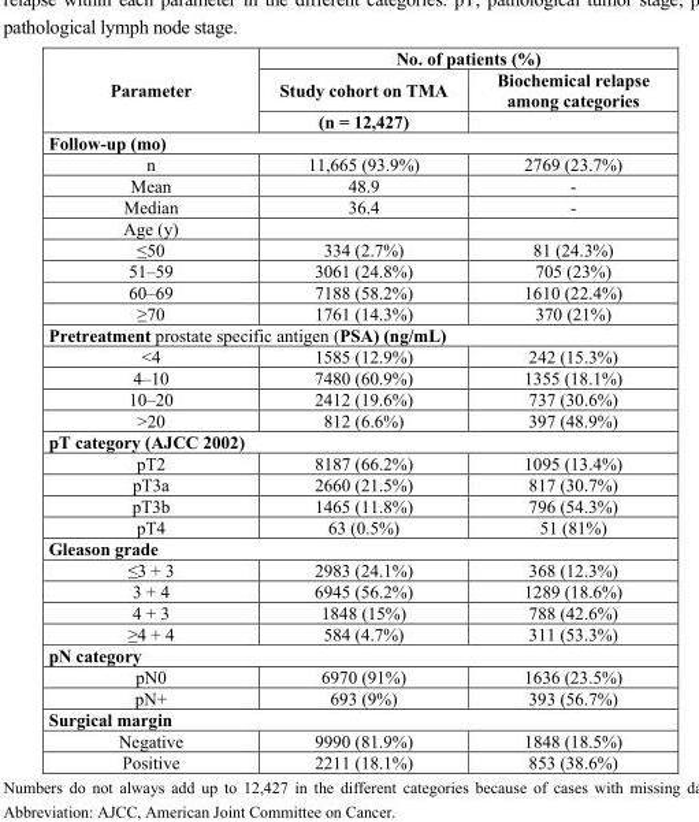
<table><thead><tr><td rowspan="3">Parameter</td><td colspan="2">No. of patients (%)</td></tr><tr><td rowspan="2">Study cohort on TMA (n = 12,427)</td><td rowspan="2">Biochemical relapse among categories</td></tr><tr></tr></thead><tbody><tr><td colspan="3">Follow-up (mo)</td></tr><tr><td>n</td><td>11,665 (93.9%)</td><td>2769 (23.7%)</td></tr><tr><td>Mean</td><td>48.9</td><td>-</td></tr><tr><td>Median</td><td>36.4</td><td>-</td></tr><tr><td colspan="3">Age (y)</td></tr><tr><td>≤50</td><td>334 (2.7%)</td><td>81 (24.3%)</td></tr><tr><td>51–59</td><td>3061 (24.8%)</td><td>705 (23%)</td></tr><tr><td>60–69</td><td>7188 (58.2%)</td><td>1610 (22.4%)</td></tr><tr><td>≥70</td><td>1761 (14.3%)</td><td>370 (21%)</td></tr><tr><td colspan="3">Pretreatment prostate specific antigen (PSA) (ng/mL)</td></tr><tr><td>&lt;4</td><td>1585 (12.9%)</td><td>242 (15.3%)</td></tr><tr><td>4–10</td><td>7480 (60.9%)</td><td>1355 (18.1%)</td></tr><tr><td>10–20</td><td>2412 (19.6%)</td><td>737 (30.6%)</td></tr><tr><td>&gt;20</td><td>812 (6.6%)</td><td>397 (48.9%)</td></tr><tr><td colspan="3">pT category (AJCC 2002)</td></tr><tr><td>pT2</td><td>8187 (66.2%)</td><td>1095 (13.4%)</td></tr><tr><td>pT3a</td><td>2660 (21.5%)</td><td>817 (30.7%)</td></tr><tr><td>pT3b</td><td>1465 (11.8%)</td><td>796 (54.3%)</td></tr><tr><td>pT4</td><td>63 (0.5%)</td><td>51 (81%)</td></tr><tr><td colspan="3">Gleason grade</td></tr><tr><td>≤3 + 3</td><td>2983 (24.1%)</td><td>368 (12.3%)</td></tr><tr><td>3 + 4</td><td>6945 (56.2%)</td><td>1289 (18.6%)</td></tr><tr><td>4 + 3</td><td>1848 (15%)</td><td>788 (42.6%)</td></tr><tr><td>≥4 + 4</td><td>584 (4.7%)</td><td>311 (53.3%)</td></tr><tr><td colspan="3">pN category</td></tr><tr><td>pN0</td><td>6970 (91%)</td><td>1636 (23.5%)</td></tr><tr><td>pN+</td><td>693 (9%)</td><td>393 (56.7%)</td></tr><tr><td colspan="3">Surgical margin</td></tr><tr><td>Negative</td><td>9990 (81.9%)</td><td>1848 (18.5%)</td></tr><tr><td>Positive</td><td>2211 (18.1%)</td><td>853 (38.6%)</td></tr></tbody></table>